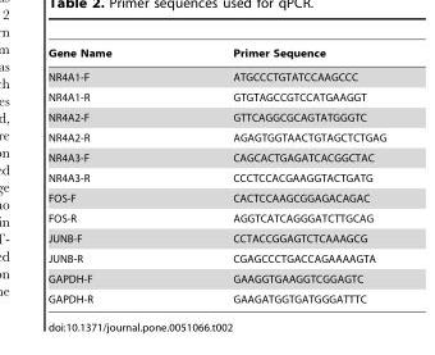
<table><thead><tr><td>Gene Name</td><td>Primer Sequence</td></tr></thead><tbody><tr><td>NR4A1-F</td><td>ATGCCCTGTATCCAAGCCC</td></tr><tr><td>NR4A1-R</td><td>GTGTAGCCGTCCATGAAGGT</td></tr><tr><td>NR4A2-F</td><td>GTTCAGGCGCAGTATGGGTC</td></tr><tr><td>NR4A2-R</td><td>AGAGTGGTAACTGTAGCTCTGAG</td></tr><tr><td>NR4A3-F</td><td>CAGCACTGAGATCACGGCTAC</td></tr><tr><td>NR4A3-R</td><td>CCCTCCACGAAGGTACTGATG</td></tr><tr><td>FOS-F</td><td>CACTCCAAGCGGAGACAGAC</td></tr><tr><td>FOS-R</td><td>AGGTCATCAGGGATCTTGCAG</td></tr><tr><td>JUNB-F</td><td>CCTACCGGAGTCTCAAAGCG</td></tr><tr><td>JUNB-R</td><td>CGAGCCCTGACCAGAAAAGTA</td></tr><tr><td>GAPDH-F</td><td>GAAGGTGAAGGTCGGAGTC</td></tr><tr><td>GAPDH-R</td><td>GAAGATGGTGATGGGATTTC</td></tr></tbody></table>